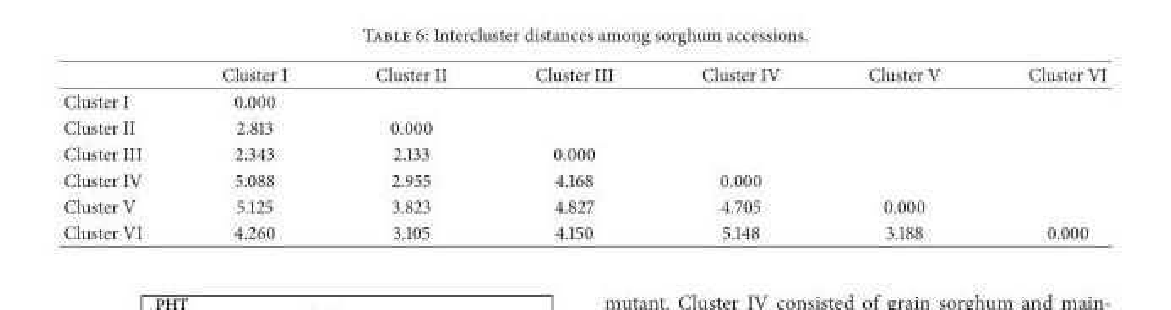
<table><thead><tr><td></td><td>Cluster I</td><td>Cluster II</td><td>Cluster III</td><td>Cluster IV</td><td>Cluster V</td><td>Cluster VI</td></tr></thead><tbody><tr><td>Cluster I</td><td>0.000</td><td></td><td></td><td></td><td></td><td></td></tr><tr><td>Cluster II</td><td>2.813</td><td>0.000</td><td></td><td></td><td></td><td></td></tr><tr><td>Cluster III</td><td>2.343</td><td>2.133</td><td>0.000</td><td></td><td></td><td></td></tr><tr><td>Cluster IV</td><td>5.088</td><td>2.955</td><td>4.168</td><td>0.000</td><td></td><td></td></tr><tr><td>Cluster V</td><td>5.125</td><td>3.823</td><td>4.827</td><td>4.705</td><td>0.000</td><td></td></tr><tr><td>Cluster VI</td><td>4.260</td><td>3.105</td><td>4.150</td><td>5.148</td><td>3.188</td><td>0.000</td></tr></tbody></table>